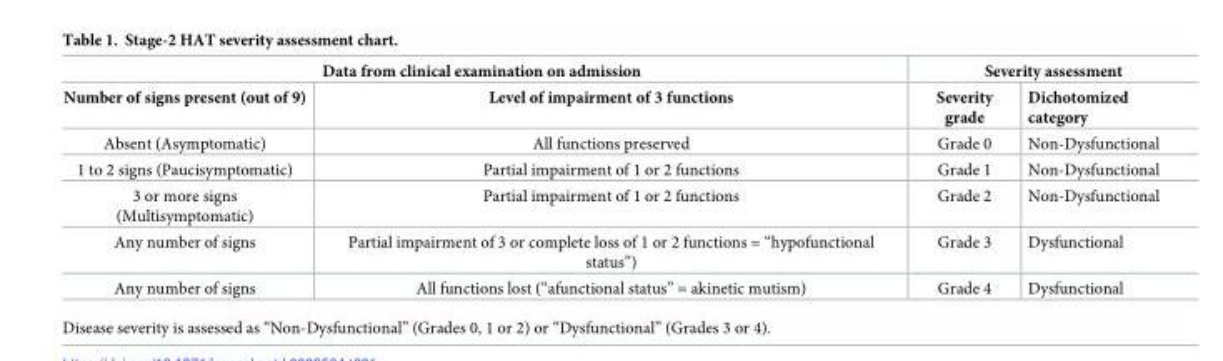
<table><thead><tr><td colspan="2">Data from clinical examination on admission</td><td colspan="2">Severity assessment</td></tr><tr><td>Number of signs present (out of 9)</td><td>Level of impairment of 3 functions</td><td>Severity grade</td><td>Dichotomized category</td></tr></thead><tbody><tr><td>Absent (Asymptomatic)</td><td>All functions preserved</td><td>Grade 0</td><td>Non-Dysfunctional</td></tr><tr><td>1 to 2 signs (Paucisymptomatic)</td><td>Partial impairment of 1 or 2 functions</td><td>Grade 1</td><td>Non-Dysfunctional</td></tr><tr><td>3 or more signs (Multisymptomatic)</td><td>Partial impairment of 1 or 2 functions</td><td>Grade 2</td><td>Non-Dysfunctional</td></tr><tr><td>Any number of signs</td><td>Partial impairment of 3 or complete loss of 1 or 2 functions = “hypofunctional status”)</td><td>Grade 3</td><td>Dysfunctional</td></tr><tr><td>Any number of signs</td><td>All functions lost (“afunctional status” = akinetic mutism)</td><td>Grade 4</td><td>Dysfunctional</td></tr></tbody></table>